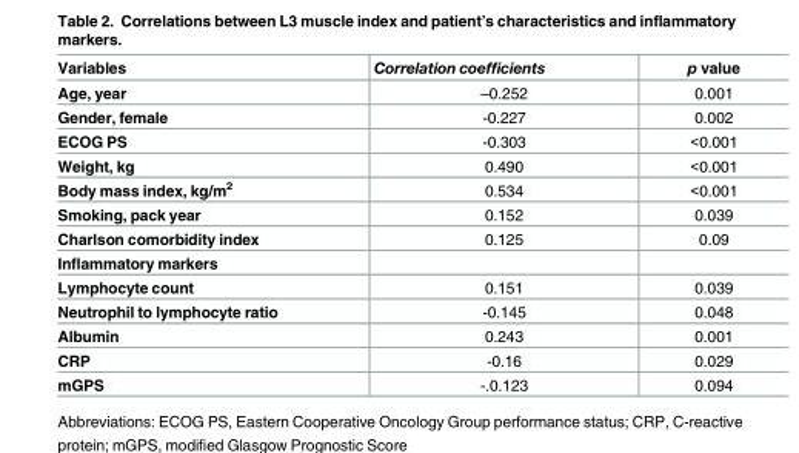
<table><thead><tr><td>Variables</td><td>Correlation coefficients</td><td>p value</td></tr></thead><tbody><tr><td>Age, year</td><td>–0.252</td><td>0.001</td></tr><tr><td>Gender, female</td><td>-0.227</td><td>0.002</td></tr><tr><td>ECOG PS</td><td>-0.303</td><td>&lt;0.001</td></tr><tr><td>Weight, kg</td><td>0.490</td><td>&lt;0.001</td></tr><tr><td>Body mass index, kg/m<sup>2</sup></td><td>0.534</td><td>&lt;0.001</td></tr><tr><td>Smoking, pack year</td><td>0.152</td><td>0.039</td></tr><tr><td>Charlson comorbidity index</td><td>0.125</td><td>0.09</td></tr><tr><td colspan="3">Inflammatory markers</td></tr><tr><td>Lymphocyte count</td><td>0.151</td><td>0.039</td></tr><tr><td>Neutrophil to lymphocyte ratio</td><td>-0.145</td><td>0.048</td></tr><tr><td>Albumin</td><td>0.243</td><td>0.001</td></tr><tr><td>CRP</td><td>-0.16</td><td>0.029</td></tr><tr><td>mGPS</td><td>-.0.123</td><td>0.094</td></tr></tbody></table>